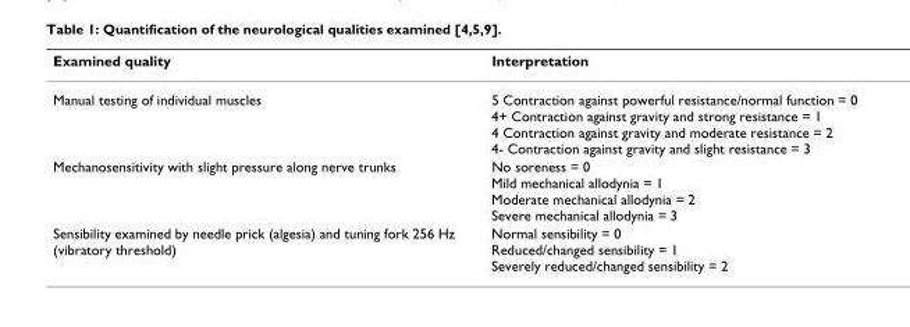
<table><thead><tr><td>Examined quality</td><td>Interpretation</td></tr></thead><tbody><tr><td>Manual testing of individual muscles</td><td>5 Contraction against powerful resistance/normal function = 0 4+ Contraction against gravity and strong resistance = 1 4 Contraction against gravity and moderate resistance = 2 4- Contraction against gravity and slight resistance = 3</td></tr><tr><td>Mechanosensitivity with slight pressure along nerve trunks</td><td>No soreness = 0 Mild mechanical allodynia = 1 Moderate mechanical allodynia = 2 Severe mechanical allodynia = 3</td></tr><tr><td>Sensibility examined by needle prick (algesia) and tuning fork 256 Hz (vibratory threshold)</td><td>Normal sensibility = 0 Reduced/changed sensibility = 1 Severely reduced/changed sensibility = 2</td></tr></tbody></table>